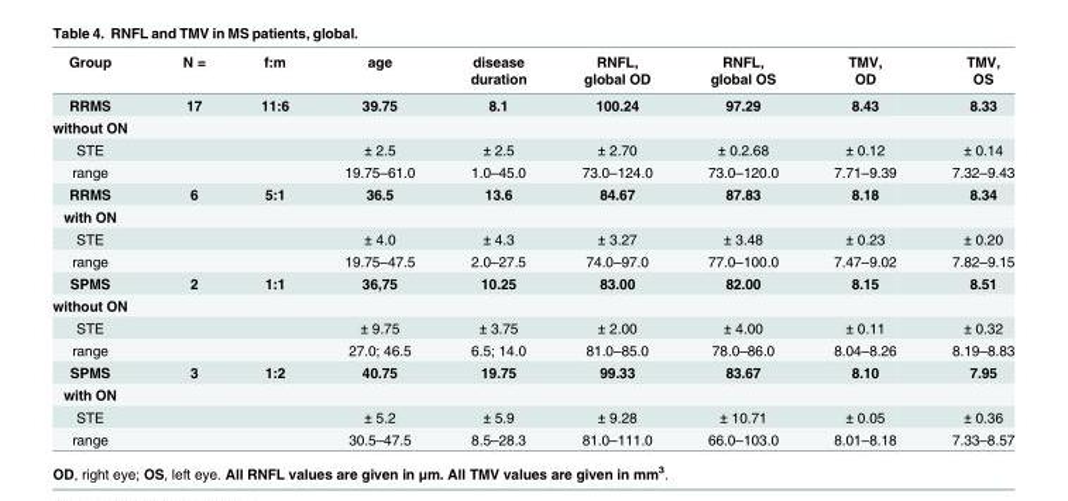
<table><thead><tr><td rowspan="2">Group</td><td rowspan="2">N =</td><td rowspan="2">f:m</td><td rowspan="2">age</td><td rowspan="2">disease duration</td><td rowspan="2">RNFL, global OD</td><td rowspan="2">RNFL, global OS</td><td rowspan="2">TMV, OD</td><td rowspan="2">TMV, OS</td></tr><tr></tr></thead><tbody><tr><td>RRMS</td><td>17</td><td>11:6</td><td>39.75</td><td>8.1</td><td>100.24</td><td>97.29</td><td>8.43</td><td>8.33</td></tr><tr><td colspan="9">without ON</td></tr><tr><td>STE</td><td></td><td></td><td>± 2.5</td><td>± 2.5</td><td>± 2.70</td><td>± 0.2.68</td><td>± 0.12</td><td>± 0.14</td></tr><tr><td>range</td><td></td><td></td><td>19.75–61.0</td><td>1.0–45.0</td><td>73.0–124.0</td><td>73.0–120.0</td><td>7.71–9.39</td><td>7.32–9.43</td></tr><tr><td>RRMS</td><td>6</td><td>5:1</td><td>36.5</td><td>13.6</td><td>84.67</td><td>87.83</td><td>8.18</td><td>8.34</td></tr><tr><td colspan="9">with ON</td></tr><tr><td>STE</td><td></td><td></td><td>± 4.0</td><td>± 4.3</td><td>± 3.27</td><td>± 3.48</td><td>± 0.23</td><td>± 0.20</td></tr><tr><td>range</td><td></td><td></td><td>19.75–47.5</td><td>2.0–27.5</td><td>74.0–97.0</td><td>77.0–100.0</td><td>7.47–9.02</td><td>7.82–9.15</td></tr><tr><td>SPMS</td><td>2</td><td>1:1</td><td>36,75</td><td>10.25</td><td>83.00</td><td>82.00</td><td>8.15</td><td>8.51</td></tr><tr><td colspan="9">without ON</td></tr><tr><td>STE</td><td></td><td></td><td>± 9.75</td><td>± 3.75</td><td>± 2.00</td><td>± 4.00</td><td>± 0.11</td><td>± 0.32</td></tr><tr><td>range</td><td></td><td></td><td>27.0; 46.5</td><td>6.5; 14.0</td><td>81.0–85.0</td><td>78.0–86.0</td><td>8.04–8.26</td><td>8.19–8.83</td></tr><tr><td>SPMS</td><td>3</td><td>1:2</td><td>40.75</td><td>19.75</td><td>99.33</td><td>83.67</td><td>8.10</td><td>7.95</td></tr><tr><td colspan="9">with ON</td></tr><tr><td>STE</td><td></td><td></td><td>± 5.2</td><td>± 5.9</td><td>± 9.28</td><td>± 10.71</td><td>± 0.05</td><td>± 0.36</td></tr><tr><td>range</td><td></td><td></td><td>30.5–47.5</td><td>8.5–28.3</td><td>81.0–111.0</td><td>66.0–103.0</td><td>8.01–8.18</td><td>7.33–8.57</td></tr></tbody></table>